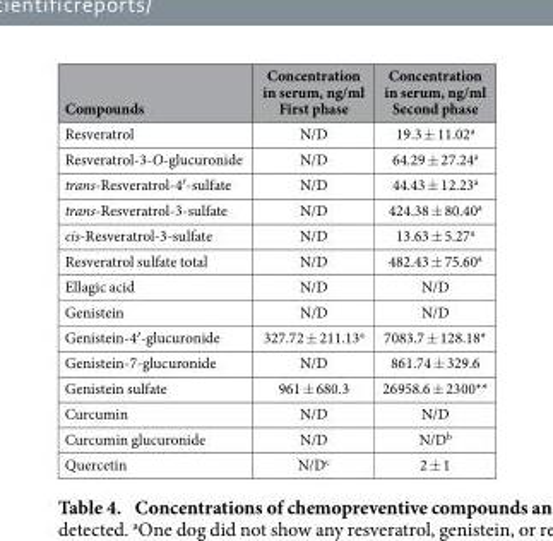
<table><thead><tr><td>Compounds</td><td>Concentration in serum, ng/ml First phase</td><td>Concentration in serum, ng/ml Second phase</td></tr></thead><tbody><tr><td>Resveratrol</td><td>N/D</td><td>19.3 ± 11.02<sup>a</sup></td></tr><tr><td>Resveratrol-3-O-glucuronide</td><td>N/D</td><td>64.29 ± 27.24<sup>a</sup></td></tr><tr><td>trans-Resveratrol-4′ -sulfate</td><td>N/D</td><td>44.43 ± 12.23<sup>a</sup></td></tr><tr><td>trans-Resveratrol-3-sulfate</td><td>N/D</td><td>424.38 ± 80.40<sup>a</sup></td></tr><tr><td>cis-Resveratrol-3-sulfate</td><td>N/D</td><td>13.63 ± 5.27<sup>a</sup></td></tr><tr><td>Resveratrol sulfate total</td><td>N/D</td><td>482.43 ± 75.60<sup>a</sup></td></tr><tr><td>Ellagic acid</td><td>N/D</td><td>N/D</td></tr><tr><td>Genistein</td><td>N/D</td><td>N/D</td></tr><tr><td>Genistein-4′ -glucuronide</td><td>327.72 ± 211.13<sup>a</sup></td><td>7083.7 ± 128.18*</td></tr><tr><td>Genistein-7-glucuronide</td><td>N/D</td><td>861.74 ± 329.6</td></tr><tr><td>Genistein sulfate</td><td>961 ± 680.3</td><td>26958.6 ± 2300**</td></tr><tr><td>Curcumin</td><td>N/D</td><td>N/D</td></tr><tr><td>Curcumin glucuronide</td><td>N/D</td><td>N/D<sup>b</sup></td></tr><tr><td>Quercetin</td><td>N/D<sup>c</sup></td><td>2 ± 1</td></tr></tbody></table>